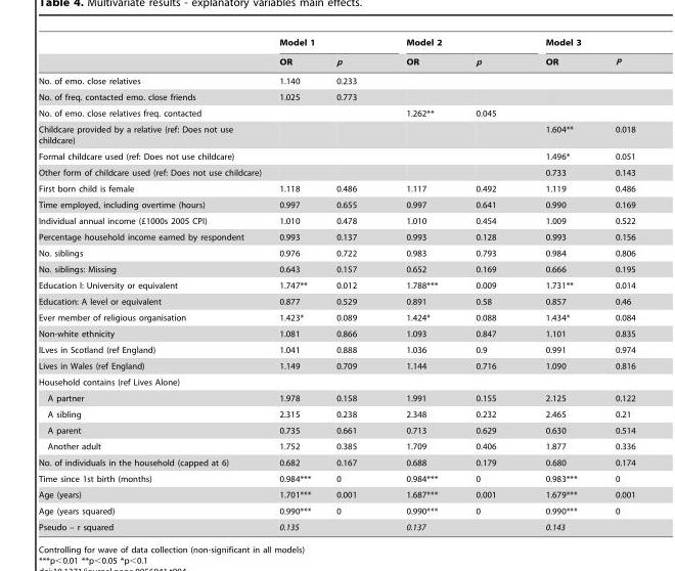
<table><thead><tr><td rowspan="2"></td><td colspan="2">Model 1</td><td colspan="2">Model 2</td><td colspan="2">Model 3</td></tr><tr><td>OR</td><td>p</td><td>OR</td><td>p</td><td>OR</td><td>P</td></tr></thead><tbody><tr><td>No. of emo. close relatives</td><td>1.140</td><td>0.233</td><td></td><td></td><td></td><td></td></tr><tr><td>No. of freq. contacted emo. close friends</td><td>1.025</td><td>0.773</td><td></td><td></td><td></td><td></td></tr><tr><td>No. of emo. close relatives freq. contacted</td><td></td><td></td><td>1.262**</td><td>0.045</td><td></td><td></td></tr><tr><td>Childcare provided by a relative (ref: Does not use childcare)</td><td></td><td></td><td></td><td></td><td>1.604**</td><td>0.018</td></tr><tr><td>Formal childcare used (ref: Does not use childcare)</td><td></td><td></td><td></td><td></td><td>1.496*</td><td>0.051</td></tr><tr><td>Other form of childcare used (ref: Does not use childcare)</td><td></td><td></td><td></td><td></td><td>0.733</td><td>0.143</td></tr><tr><td>First born child is female</td><td>1.118</td><td>0.486</td><td>1.117</td><td>0.492</td><td>1.119</td><td>0.486</td></tr><tr><td>Time employed, including overtime (hours)</td><td>0.997</td><td>0.655</td><td>0.997</td><td>0.641</td><td>0.990</td><td>0.169</td></tr><tr><td>Individual annual income (£1000s 2005 CPI)</td><td>1.010</td><td>0.478</td><td>1.010</td><td>0.454</td><td>1.009</td><td>0.522</td></tr><tr><td>Percentage household income earned by respondent</td><td>0.993</td><td>0.137</td><td>0.993</td><td>0.128</td><td>0.993</td><td>0.156</td></tr><tr><td>No. siblings</td><td>0.976</td><td>0.722</td><td>0.983</td><td>0.793</td><td>0.984</td><td>0.806</td></tr><tr><td>No. siblings: Missing</td><td>0.643</td><td>0.157</td><td>0.652</td><td>0.169</td><td>0.666</td><td>0.195</td></tr><tr><td>Education l: University or equivalent</td><td>1.747**</td><td>0.012</td><td>1.788***</td><td>0.009</td><td>1.731**</td><td>0.014</td></tr><tr><td>Education: A level or equivalent</td><td>0.877</td><td>0.529</td><td>0.891</td><td>0.58</td><td>0.857</td><td>0.46</td></tr><tr><td>Ever member of religious organisation</td><td>1.423*</td><td>0.089</td><td>1.424*</td><td>0.088</td><td>1.434*</td><td>0.084</td></tr><tr><td>Non-white ethnicity</td><td>1.081</td><td>0.866</td><td>1.093</td><td>0.847</td><td>1.101</td><td>0.835</td></tr><tr><td>lLves in Scotland (ref England)</td><td>1.041</td><td>0.888</td><td>1.036</td><td>0.9</td><td>0.991</td><td>0.974</td></tr><tr><td>Lives in Wales (ref England)</td><td>1.149</td><td>0.709</td><td>1.144</td><td>0.716</td><td>1.090</td><td>0.816</td></tr><tr><td colspan="7">Household contains (ref Lives Alone)</td></tr><tr><td>A partner</td><td>1.978</td><td>0.158</td><td>1.991</td><td>0.155</td><td>2.125</td><td>0.122</td></tr><tr><td>A sibling</td><td>2.315</td><td>0.238</td><td>2.348</td><td>0.232</td><td>2.465</td><td>0.21</td></tr><tr><td>A parent</td><td>0.735</td><td>0.661</td><td>0.713</td><td>0.629</td><td>0.630</td><td>0.514</td></tr><tr><td>Another adult</td><td>1.752</td><td>0.385</td><td>1.709</td><td>0.406</td><td>1.877</td><td>0.336</td></tr><tr><td>No. of individuals in the household (capped at 6)</td><td>0.682</td><td>0.167</td><td>0.688</td><td>0.179</td><td>0.680</td><td>0.174</td></tr><tr><td>Time since 1st birth (months)</td><td>0.984***</td><td>0</td><td>0.984***</td><td>0</td><td>0.983***</td><td>0</td></tr><tr><td>Age (years)</td><td>1.701***</td><td>0.001</td><td>1.687***</td><td>0.001</td><td>1.679***</td><td>0.001</td></tr><tr><td>Age (years squared)</td><td>0.990***</td><td>0</td><td>0.990***</td><td>0</td><td>0.990***</td><td>0</td></tr><tr><td>Pseudo – r squared</td><td colspan="2">0.135</td><td colspan="2">0.137</td><td colspan="2">0.143</td></tr></tbody></table>